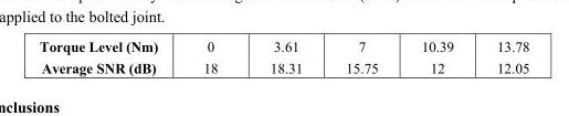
<table><tbody><tr><td>Torque Level (Nm)</td><td>0</td><td>3.61</td><td>7</td><td>10.39</td><td>13.78</td></tr><tr><td>Average SNR (dB)</td><td>18</td><td>18.31</td><td>15.75</td><td>12</td><td>12.05</td></tr></tbody></table>